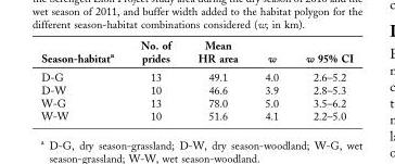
<table><thead><tr><td>Season-habitat<sup>a</sup></td><td>No. of prides</td><td>Mean HR area</td><td>w</td><td>w 95% CI</td></tr></thead><tbody><tr><td>D-G</td><td>13</td><td>49.1</td><td>4.0</td><td>2.6–5.2</td></tr><tr><td>D-W</td><td>10</td><td>46.6</td><td>3.9</td><td>2.8–5.3</td></tr><tr><td>W-G</td><td>13</td><td>78.0</td><td>5.0</td><td>3.5–6.2</td></tr><tr><td>W-W</td><td>10</td><td>51.6</td><td>4.1</td><td>2.2–5.0</td></tr></tbody></table>